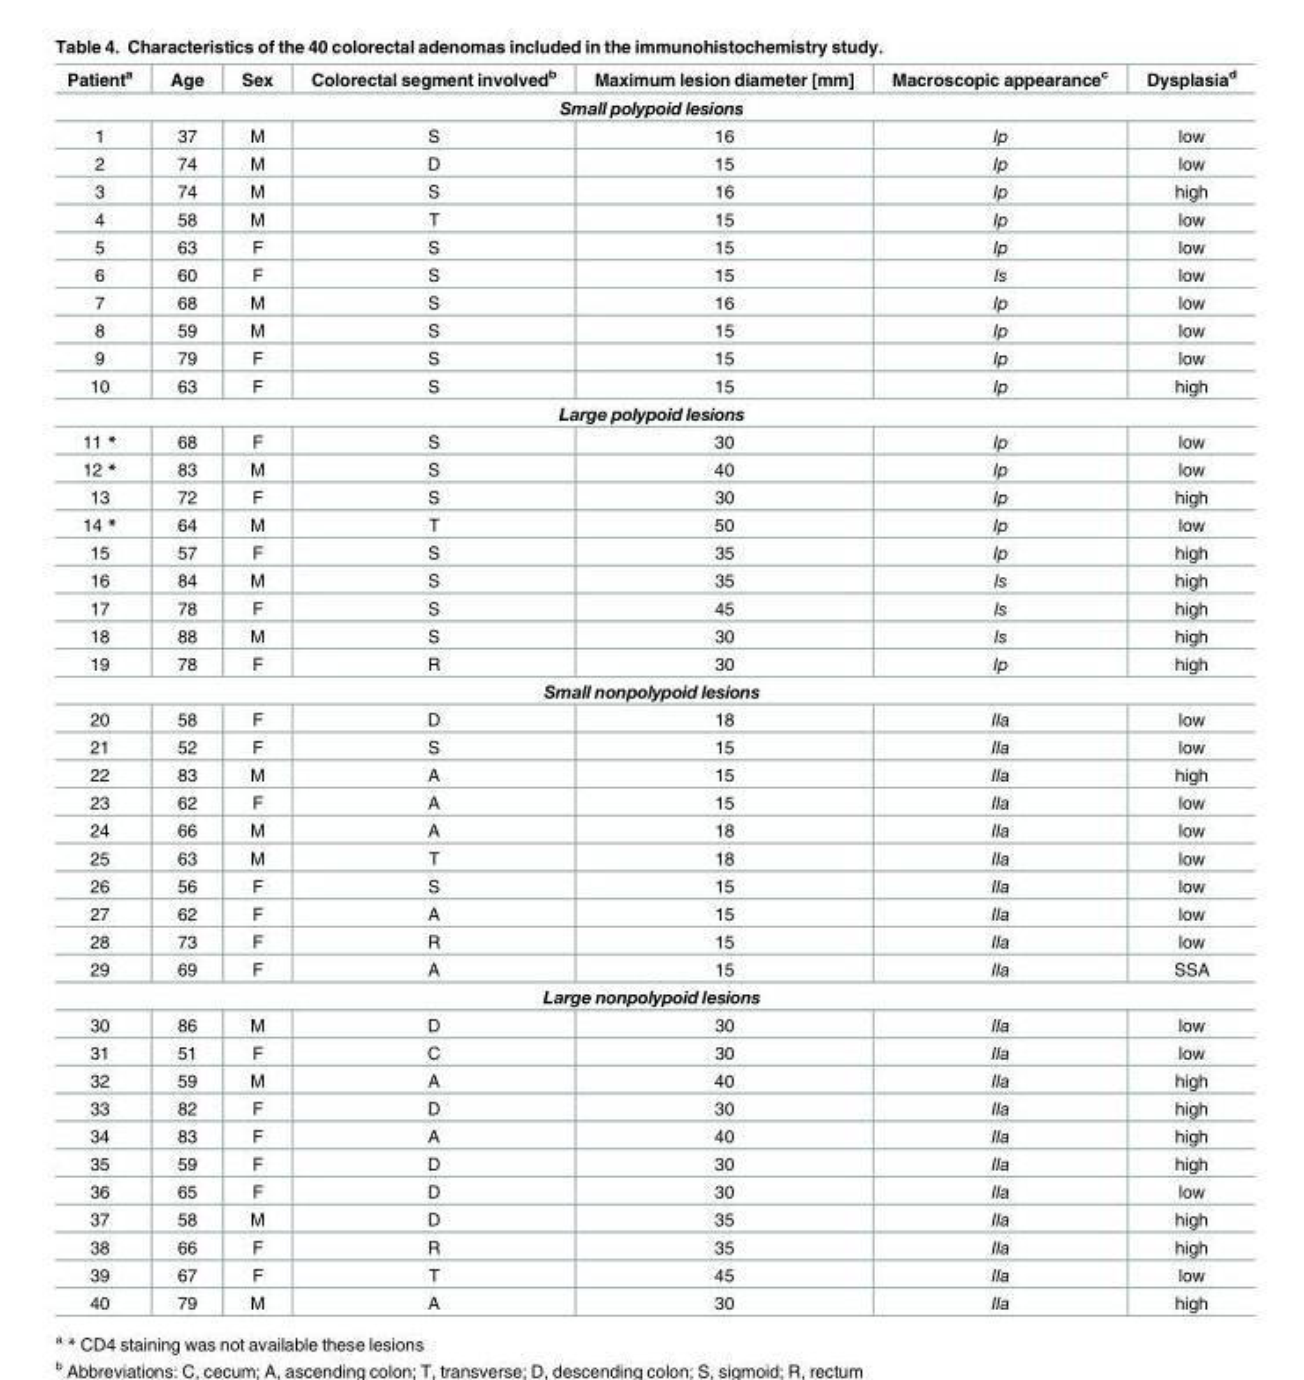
<table><thead><tr><td>Patient<sup>a</sup></td><td>Age</td><td>Sex</td><td>Colorectal segment involved<sup>b</sup></td><td>Maximum lesion diameter [mm]</td><td>Macroscopic appearance<sup>c</sup></td><td>Dysplasia<sup>d</sup></td></tr></thead><tbody><tr><td colspan="7">Small polypoid lesions</td></tr><tr><td>1</td><td>37</td><td>M</td><td>S</td><td>16</td><td>Ip</td><td>low</td></tr><tr><td>2</td><td>74</td><td>M</td><td>D</td><td>15</td><td>Ip</td><td>low</td></tr><tr><td>3</td><td>74</td><td>M</td><td>S</td><td>16</td><td>Ip</td><td>high</td></tr><tr><td>4</td><td>58</td><td>M</td><td>T</td><td>15</td><td>Ip</td><td>low</td></tr><tr><td>5</td><td>63</td><td>F</td><td>S</td><td>15</td><td>Ip</td><td>low</td></tr><tr><td>6</td><td>60</td><td>F</td><td>S</td><td>15</td><td>Is</td><td>low</td></tr><tr><td>7</td><td>68</td><td>M</td><td>S</td><td>16</td><td>Ip</td><td>low</td></tr><tr><td>8</td><td>59</td><td>M</td><td>S</td><td>15</td><td>Ip</td><td>low</td></tr><tr><td>9</td><td>79</td><td>F</td><td>S</td><td>15</td><td>Ip</td><td>low</td></tr><tr><td>10</td><td>63</td><td>F</td><td>S</td><td>15</td><td>Ip</td><td>high</td></tr><tr><td colspan="7">Large polypoid lesions</td></tr><tr><td>11 *</td><td>68</td><td>F</td><td>S</td><td>30</td><td>Ip</td><td>low</td></tr><tr><td>12 *</td><td>83</td><td>M</td><td>S</td><td>40</td><td>Ip</td><td>low</td></tr><tr><td>13</td><td>72</td><td>F</td><td>S</td><td>30</td><td>Ip</td><td>high</td></tr><tr><td>14 *</td><td>64</td><td>M</td><td>T</td><td>50</td><td>Ip</td><td>low</td></tr><tr><td>15</td><td>57</td><td>F</td><td>S</td><td>35</td><td>Ip</td><td>high</td></tr><tr><td>16</td><td>84</td><td>M</td><td>S</td><td>35</td><td>Is</td><td>high</td></tr><tr><td>17</td><td>78</td><td>F</td><td>S</td><td>45</td><td>Is</td><td>high</td></tr><tr><td>18</td><td>88</td><td>M</td><td>S</td><td>30</td><td>Is</td><td>high</td></tr><tr><td>19</td><td>78</td><td>F</td><td>R</td><td>30</td><td>Ip</td><td>high</td></tr><tr><td colspan="7">Small nonpolypoid lesions</td></tr><tr><td>20</td><td>58</td><td>F</td><td>D</td><td>18</td><td>IIa</td><td>low</td></tr><tr><td>21</td><td>52</td><td>F</td><td>S</td><td>15</td><td>IIa</td><td>low</td></tr><tr><td>22</td><td>83</td><td>M</td><td>A</td><td>15</td><td>IIa</td><td>high</td></tr><tr><td>23</td><td>62</td><td>F</td><td>A</td><td>15</td><td>IIa</td><td>low</td></tr><tr><td>24</td><td>66</td><td>M</td><td>A</td><td>18</td><td>IIa</td><td>low</td></tr><tr><td>25</td><td>63</td><td>M</td><td>T</td><td>18</td><td>IIa</td><td>low</td></tr><tr><td>26</td><td>56</td><td>F</td><td>S</td><td>15</td><td>IIa</td><td>low</td></tr><tr><td>27</td><td>62</td><td>F</td><td>A</td><td>15</td><td>IIa</td><td>low</td></tr><tr><td>28</td><td>73</td><td>F</td><td>R</td><td>15</td><td>IIa</td><td>low</td></tr><tr><td>29</td><td>69</td><td>F</td><td>A</td><td>15</td><td>IIa</td><td>SSA</td></tr><tr><td colspan="7">Large nonpolypoid lesions</td></tr><tr><td>30</td><td>86</td><td>M</td><td>D</td><td>30</td><td>IIa</td><td>low</td></tr><tr><td>31</td><td>51</td><td>F</td><td>C</td><td>30</td><td>IIa</td><td>low</td></tr><tr><td>32</td><td>59</td><td>M</td><td>A</td><td>40</td><td>IIa</td><td>high</td></tr><tr><td>33</td><td>82</td><td>F</td><td>D</td><td>30</td><td>IIa</td><td>high</td></tr><tr><td>34</td><td>83</td><td>F</td><td>A</td><td>40</td><td>IIa</td><td>high</td></tr><tr><td>35</td><td>59</td><td>F</td><td>D</td><td>30</td><td>IIa</td><td>high</td></tr><tr><td>36</td><td>65</td><td>F</td><td>D</td><td>30</td><td>IIa</td><td>low</td></tr><tr><td>37</td><td>58</td><td>M</td><td>D</td><td>35</td><td>IIa</td><td>high</td></tr><tr><td>38</td><td>66</td><td>F</td><td>R</td><td>35</td><td>IIa</td><td>high</td></tr><tr><td>39</td><td>67</td><td>F</td><td>T</td><td>45</td><td>IIa</td><td>low</td></tr><tr><td>40</td><td>79</td><td>M</td><td>A</td><td>30</td><td>IIa</td><td>high</td></tr></tbody></table>